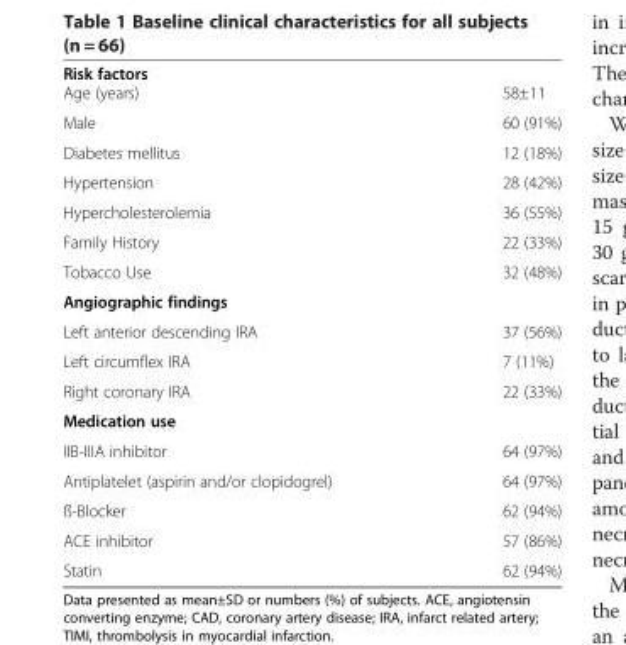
<table><thead><tr><td>Risk factors</td><td></td></tr></thead><tbody><tr><td>Age (years)</td><td>58±11</td></tr><tr><td>Male</td><td>60 (91%)</td></tr><tr><td>Diabetes mellitus</td><td>12 (18%)</td></tr><tr><td>Hypertension</td><td>28 (42%)</td></tr><tr><td>Hypercholesterolemia</td><td>36 (55%)</td></tr><tr><td>Family History</td><td>22 (33%)</td></tr><tr><td>Tobacco Use</td><td>32 (48%)</td></tr><tr><td colspan="2">Angiographic findings</td></tr><tr><td>Left anterior descending IRA</td><td>37 (56%)</td></tr><tr><td>Left circumflex IRA</td><td>7 (11%)</td></tr><tr><td>Right coronary IRA</td><td>22 (33%)</td></tr><tr><td colspan="2">Medication use</td></tr><tr><td>IIB-IIIA inhibitor</td><td>64 (97%)</td></tr><tr><td>Antiplatelet (aspirin and/or clopidogrel)</td><td>64 (97%)</td></tr><tr><td>ß-Blocker</td><td>62 (94%)</td></tr><tr><td>ACE inhibitor</td><td>57 (86%)</td></tr><tr><td>Statin</td><td>62 (94%)</td></tr></tbody></table>